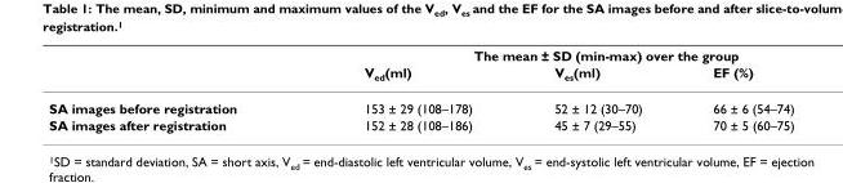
<table><thead><tr><td rowspan="2"></td><td colspan="3">The mean ± SD (min-max) over the group</td></tr><tr><td>V<sub>ed</sub>(ml)</td><td>V<sub>es</sub>(ml)</td><td>EF (%)</td></tr></thead><tbody><tr><td>SA images before registration</td><td>153 ± 29 (108–178)</td><td>52 ± 12 (30–70)</td><td>66 ± 6 (54–74)</td></tr><tr><td>SA images after registration</td><td>152 ± 28 (108–186)</td><td>45 ± 7 (29–55)</td><td>70 ± 5 (60–75)</td></tr></tbody></table>